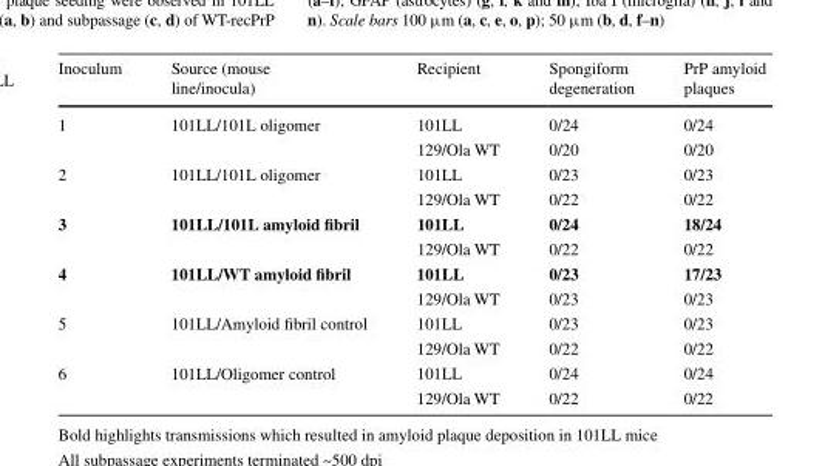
<table><thead><tr><td>Inoculum</td><td>Source (mouse line/inocula)</td><td>Recipient</td><td>Spongiform degeneration</td><td>PrP amyloid plaques</td></tr></thead><tbody><tr><td rowspan="2">1</td><td rowspan="2">101LL/101L oligomer</td><td>101LL</td><td>0/24</td><td>0/24</td></tr><tr><td>129/Ola WT</td><td>0/20</td><td>0/20</td></tr><tr><td rowspan="2">2</td><td rowspan="2">101LL/101L oligomer</td><td>101LL</td><td>0/23</td><td>0/23</td></tr><tr><td>129/Ola WT</td><td>0/22</td><td>0/22</td></tr><tr><td rowspan="2">3</td><td rowspan="2">101LL/101L amyloid fibril</td><td>101LL</td><td>0/24</td><td>18/24</td></tr><tr><td>129/Ola WT</td><td>0/22</td><td>0/22</td></tr><tr><td rowspan="2">4</td><td rowspan="2">101LL/WT amyloid fibril</td><td>101LL</td><td>0/23</td><td>17/23</td></tr><tr><td>129/Ola WT</td><td>0/23</td><td>0/23</td></tr><tr><td rowspan="2">5</td><td rowspan="2">101LL/Amyloid fibril control</td><td>101LL</td><td>0/23</td><td>0/23</td></tr><tr><td>129/Ola WT</td><td>0/22</td><td>0/22</td></tr><tr><td rowspan="2">6</td><td rowspan="2">101LL/Oligomer control</td><td>101LL</td><td>0/24</td><td>0/24</td></tr><tr><td>129/Ola WT</td><td>0/22</td><td>0/22</td></tr></tbody></table>